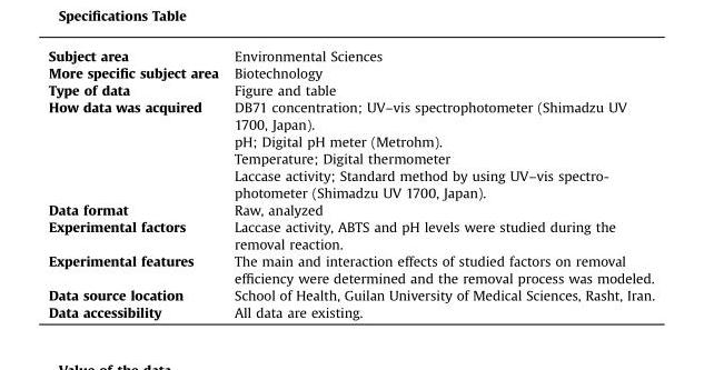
<table><tbody><tr><td>Subject area</td><td>Environmental Sciences</td></tr><tr><td>More specific subject area</td><td>Biotechnology</td></tr><tr><td>Type of data</td><td>Figure and table</td></tr><tr><td rowspan="4">How data was acquired</td><td>DB71 concentration; UV–vis spectrophotometer (Shimadzu UV 1700, Japan).</td></tr><tr><td>pH; Digital pH meter (Metrohm).</td></tr><tr><td>Temperature; Digital thermometer</td></tr><tr><td>Laccase activity; Standard method by using UV–vis spectro- photometer (Shimadzu UV 1700, Japan).</td></tr><tr><td>Data format</td><td>Raw, analyzed</td></tr><tr><td>Experimental factors</td><td>Laccase activity, ABTS and pH levels were studied during the removal reaction.</td></tr><tr><td>Experimental features</td><td>The main and interaction effects of studied factors on removal efficiency were determined and the removal process was modeled.</td></tr><tr><td>Data source location</td><td>School of Health, Guilan University of Medical Sciences, Rasht, Iran.</td></tr><tr><td>Data accessibility</td><td>All data are existing.</td></tr></tbody></table>